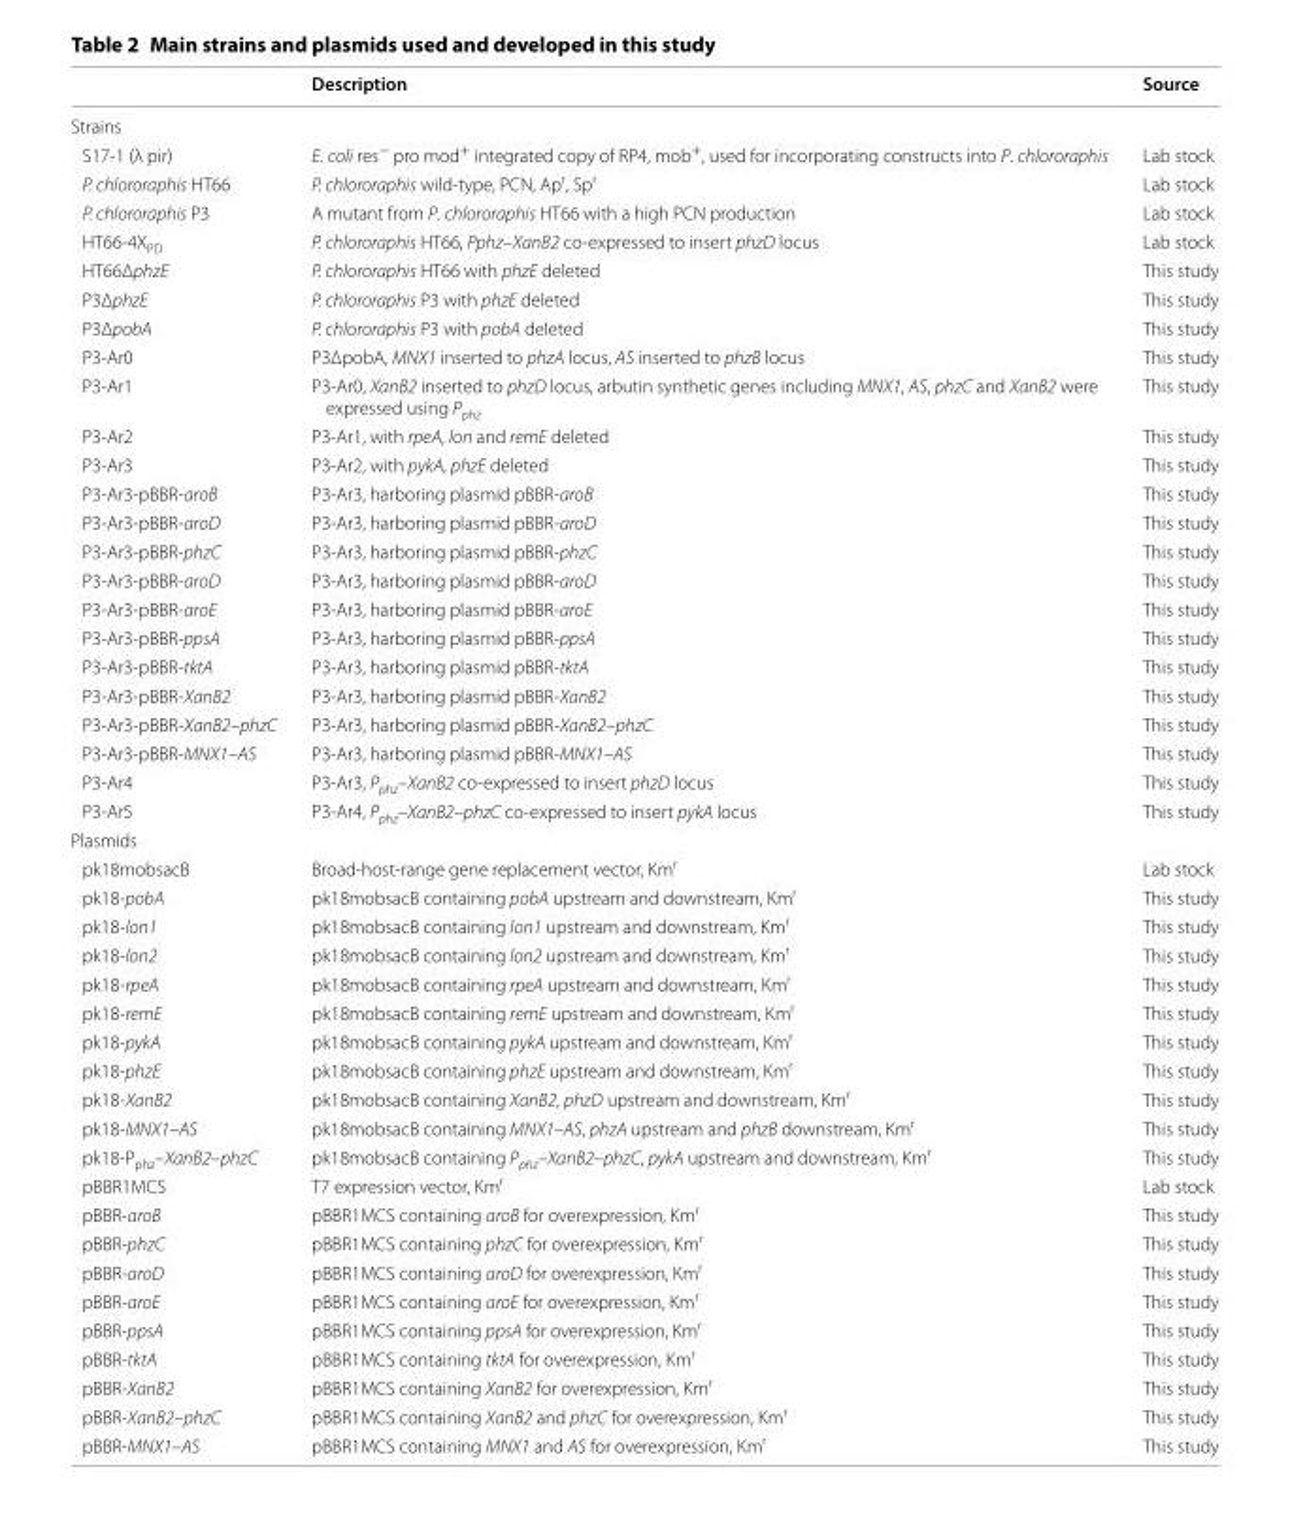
<table><thead><tr><td></td><td>Description</td><td>Source</td></tr></thead><tbody><tr><td colspan="3">Strains</td></tr><tr><td>S17-1 (λ pir)</td><td>E. coli res<sup>−</sup> pro mod<sup>+</sup> integrated copy of RP4, mob<sup>+</sup>, used for incorporating constructs into P. chlororaphis</td><td>Lab stock</td></tr><tr><td>P. chlororaphis HT66</td><td>P. chlororaphis wild-type, PCN, Ap<sup>r</sup>, Sp<sup>r</sup></td><td>Lab stock</td></tr><tr><td>P. chlororaphis P3</td><td>A mutant from P. chlororaphis HT66 with a high PCN production</td><td>Lab stock</td></tr><tr><td>HT66-4X<sub>PD</sub></td><td>P. chlororaphis HT66, Pphz–XanB2 co-expressed to insert phzD locus</td><td>Lab stock</td></tr><tr><td>HT66ΔphzE</td><td>P. chlororaphis HT66 with phzE deleted</td><td>This study</td></tr><tr><td>P3ΔphzE</td><td>P. chlororaphis P3 with phzE deleted</td><td>This study</td></tr><tr><td>P3ΔpobA</td><td>P. chlororaphis P3 with pobA deleted</td><td>This study</td></tr><tr><td>P3-Ar0</td><td>P3ΔpobA, MNX1 inserted to phzA locus, AS inserted to phzB locus</td><td>This study</td></tr><tr><td>P3-Ar1</td><td>P3-Ar0, XanB2 inserted to phzD locus, arbutin synthetic genes including MNX1, AS, phzC and XanB2 were expressed using P<sub>phz</sub></td><td>This study</td></tr><tr><td>P3-Ar2</td><td>P3-Ar1, with rpeA, lon and remE deleted</td><td>This study</td></tr><tr><td>P3-Ar3</td><td>P3-Ar2, with pykA, phzE deleted</td><td>This study</td></tr><tr><td>P3-Ar3-pBBR-aroB</td><td>P3-Ar3, harboring plasmid pBBR-aroB</td><td>This study</td></tr><tr><td>P3-Ar3-pBBR-aroD</td><td>P3-Ar3, harboring plasmid pBBR-aroD</td><td>This study</td></tr><tr><td>P3-Ar3-pBBR-phzC</td><td>P3-Ar3, harboring plasmid pBBR-phzC</td><td>This study</td></tr><tr><td>P3-Ar3-pBBR-aroD</td><td>P3-Ar3, harboring plasmid pBBR-aroD</td><td>This study</td></tr><tr><td>P3-Ar3-pBBR-aroE</td><td>P3-Ar3, harboring plasmid pBBR-aroE</td><td>This study</td></tr><tr><td>P3-Ar3-pBBR-ppsA</td><td>P3-Ar3, harboring plasmid pBBR-ppsA</td><td>This study</td></tr><tr><td>P3-Ar3-pBBR-tktA</td><td>P3-Ar3, harboring plasmid pBBR-tktA</td><td>This study</td></tr><tr><td>P3-Ar3-pBBR-XanB2</td><td>P3-Ar3, harboring plasmid pBBR-XanB2</td><td>This study</td></tr><tr><td>P3-Ar3-pBBR-XanB2–phzC</td><td>P3-Ar3, harboring plasmid pBBR-XanB2–phzC</td><td>This study</td></tr><tr><td>P3-Ar3-pBBR-MNX1–AS</td><td>P3-Ar3, harboring plasmid pBBR-MNX1–AS</td><td>This study</td></tr><tr><td>P3-Ar4</td><td>P3-Ar3, P<sub>phz</sub>–XanB2 co-expressed to insert phzD locus</td><td>This study</td></tr><tr><td>P3-Ar5</td><td>P3-Ar4, P<sub>phz</sub>–XanB2–phzC co-expressed to insert pykA locus</td><td>This study</td></tr><tr><td colspan="3">Plasmids</td></tr><tr><td>pk18mobsacB</td><td>Broad-host-range gene replacement vector, Km<sup>r</sup></td><td>Lab stock</td></tr><tr><td>pk18-pobA</td><td>pk18mobsacB containing pobA upstream and downstream, Km<sup>r</sup></td><td>This study</td></tr><tr><td>pk18-lon1</td><td>pk18mobsacB containing lon1 upstream and downstream, Km<sup>r</sup></td><td>This study</td></tr><tr><td>pk18-lon2</td><td>pk18mobsacB containing lon2 upstream and downstream, Km<sup>r</sup></td><td>This study</td></tr><tr><td>pk18-rpeA</td><td>pk18mobsacB containing rpeA upstream and downstream, Km<sup>r</sup></td><td>This study</td></tr><tr><td>pk18-remE</td><td>pk18mobsacB containing remE upstream and downstream, Km<sup>r</sup></td><td>This study</td></tr><tr><td>pk18-pykA</td><td>pk18mobsacB containing pykA upstream and downstream, Km<sup>r</sup></td><td>This study</td></tr><tr><td>pk18-phzE</td><td>pk18mobsacB containing phzE upstream and downstream, Km<sup>r</sup></td><td>This study</td></tr><tr><td>pk18-XanB2</td><td>pk18mobsacB containing XanB2, phzD upstream and downstream, Km<sup>r</sup></td><td>This study</td></tr><tr><td>pk18-MNX1–AS</td><td>pk18mobsacB containing MNX1–AS, phzA upstream and phzB downstream, Km<sup>r</sup></td><td>This study</td></tr><tr><td>pk18-P<sub>phz</sub>–XanB2–phzC</td><td>pk18mobsacB containing P<sub>phz</sub>–XanB2–phzC, pykA upstream and downstream, Km<sup>r</sup></td><td>This study</td></tr><tr><td>pBBR1MCS</td><td>T7 expression vector, Km<sup>r</sup></td><td>Lab stock</td></tr><tr><td>pBBR-aroB</td><td>pBBR1MCS containing aroB for overexpression, Km<sup>r</sup></td><td>This study</td></tr><tr><td>pBBR-phzC</td><td>pBBR1MCS containing phzC for overexpression, Km<sup>r</sup></td><td>This study</td></tr><tr><td>pBBR-aroD</td><td>pBBR1MCS containing aroD for overexpression, Km<sup>r</sup></td><td>This study</td></tr><tr><td>pBBR-aroE</td><td>pBBR1MCS containing aroE for overexpression, Km<sup>r</sup></td><td>This study</td></tr><tr><td>pBBR-ppsA</td><td>pBBR1MCS containing ppsA for overexpression, Km<sup>r</sup></td><td>This study</td></tr><tr><td>pBBR-tktA</td><td>pBBR1MCS containing tktA for overexpression, Km<sup>r</sup></td><td>This study</td></tr><tr><td>pBBR-XanB2</td><td>pBBR1MCS containing XanB2 for overexpression, Km<sup>r</sup></td><td>This study</td></tr><tr><td>pBBR-XanB2–phzC</td><td>pBBR1MCS containing XanB2 and phzC for overexpression, Km<sup>r</sup></td><td>This study</td></tr><tr><td>pBBR-MNX1–AS</td><td>pBBR1MCS containing MNX1 and AS for overexpression, Km<sup>r</sup></td><td>This study</td></tr></tbody></table>